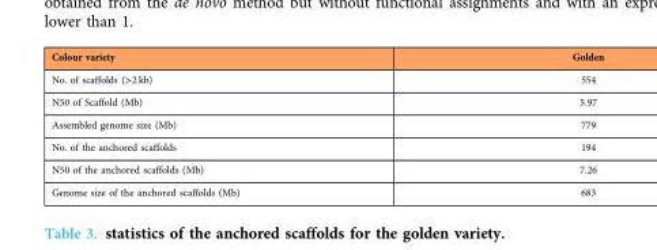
<table><thead><tr><td>Colour variety</td><td>Golden</td></tr></thead><tbody><tr><td>No. of scaffolds (&gt;2 kb)</td><td>554</td></tr><tr><td>N50 of Scaffold (Mb)</td><td>5.97</td></tr><tr><td>Assembled genome size (Mb)</td><td>779</td></tr><tr><td>No. of the anchored scaffolds</td><td>194</td></tr><tr><td>N50 of the anchored scaffolds (Mb)</td><td>7.26</td></tr><tr><td>Genome size of the anchored scaffolds (Mb)</td><td>683</td></tr></tbody></table>